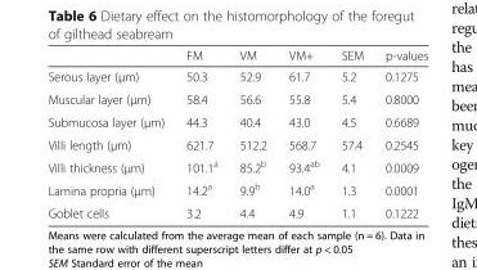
<table><thead><tr><td></td><td>FM</td><td>VM</td><td>VM+</td><td>SEM</td><td>p-values</td></tr></thead><tbody><tr><td>Serous layer (μm)</td><td>50.3</td><td>52.9</td><td>61.7</td><td>5.2</td><td>0.1275</td></tr><tr><td>Muscular layer (μm)</td><td>58.4</td><td>56.6</td><td>55.8</td><td>5.4</td><td>0.8000</td></tr><tr><td>Submucosa layer (μm)</td><td>44.3</td><td>40.4</td><td>43.0</td><td>4.5</td><td>0.6689</td></tr><tr><td>Villi length (μm)</td><td>621.7</td><td>512.2</td><td>568.7</td><td>57.4</td><td>0.2545</td></tr><tr><td>Villi thickness (μm)</td><td>101.1<sup>a</sup></td><td>85.2<sup>b</sup></td><td>93.4<sup>ab</sup></td><td>4.1</td><td>0.0009</td></tr><tr><td>Lamina propria (μm)</td><td>14.2<sup>a</sup></td><td>9.9<sup>b</sup></td><td>14.0<sup>a</sup></td><td>1.3</td><td>0.0001</td></tr><tr><td>Goblet cells</td><td>3.2</td><td>4.4</td><td>4.9</td><td>1.1</td><td>0.1222</td></tr></tbody></table>